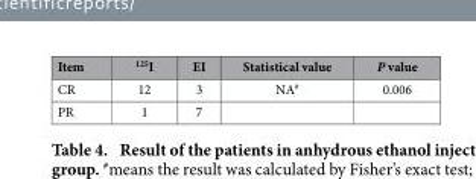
<table><thead><tr><td>Item</td><td><sup>125</sup>I</td><td>EI</td><td>Statistical value</td><td>P value</td></tr></thead><tbody><tr><td>CR</td><td>12</td><td>3</td><td>NA<sup>#</sup></td><td>0.006</td></tr><tr><td>PR</td><td>1</td><td>7</td><td></td><td></td></tr></tbody></table>